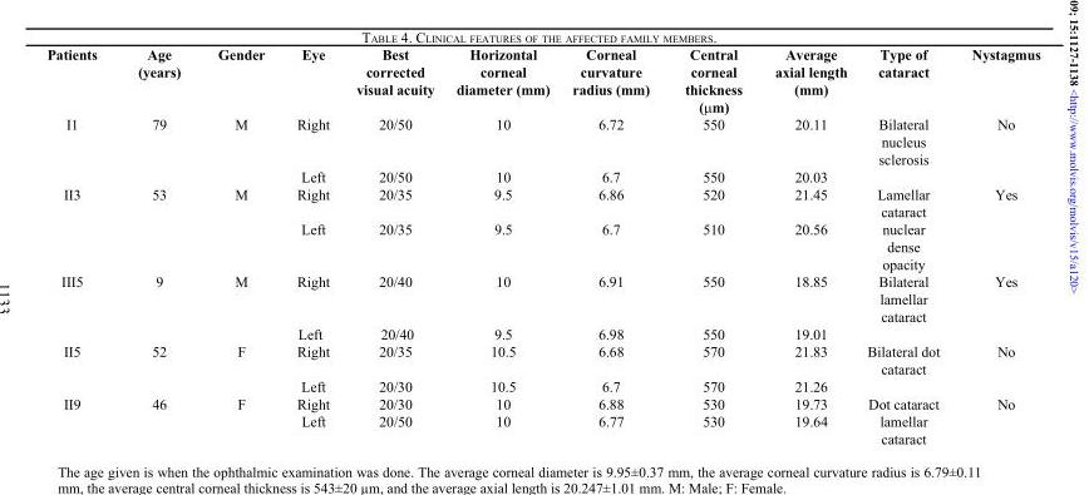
<table><thead><tr><td>Patients</td><td>Age (years)</td><td>Gender</td><td>Eye</td><td>Best corrected visual acuity</td><td>Horizontal corneal diameter (mm)</td><td>Corneal curvature radius (mm)</td><td>Central corneal thickness (µm)</td><td>Average axial length (mm)</td><td>Type of cataract</td><td>Nystagmus</td></tr></thead><tbody><tr><td rowspan="2">I1</td><td rowspan="2">79</td><td rowspan="2">M</td><td>Right</td><td>20/50</td><td>10</td><td>6.72</td><td>550</td><td>20.11</td><td rowspan="2">Bilateral nucleus sclerosis</td><td rowspan="2">No</td></tr><tr><td>Left</td><td>20/50</td><td>10</td><td>6.7</td><td>550</td><td>20.03</td></tr><tr><td rowspan="2">II3</td><td rowspan="2">53</td><td rowspan="2">M</td><td>Right</td><td>20/35</td><td>9.5</td><td>6.86</td><td>520</td><td>21.45</td><td>Lamellar cataract</td><td rowspan="2">Yes</td></tr><tr><td>Left</td><td>20/35</td><td>9.5</td><td>6.7</td><td>510</td><td>20.56</td><td>nuclear dense opacity</td></tr><tr><td rowspan="2">III5</td><td rowspan="2">9</td><td rowspan="2">M</td><td>Right</td><td>20/40</td><td>10</td><td>6.91</td><td>550</td><td>18.85</td><td rowspan="2">Bilateral lamellar cataract</td><td rowspan="2">Yes</td></tr><tr><td>Left</td><td>20/40</td><td>9.5</td><td>6.98</td><td>550</td><td>19.01</td></tr><tr><td rowspan="2">II5</td><td rowspan="2">52</td><td rowspan="2">F</td><td>Right</td><td>20/35</td><td>10.5</td><td>6.68</td><td>570</td><td>21.83</td><td rowspan="2">Bilateral dot cataract</td><td rowspan="2">No</td></tr><tr><td>Left</td><td>20/30</td><td>10.5</td><td>6.7</td><td>570</td><td>21.26</td></tr><tr><td rowspan="2">II9</td><td rowspan="2">46</td><td rowspan="2">F</td><td>Right</td><td>20/30</td><td>10</td><td>6.88</td><td>530</td><td>19.73</td><td>Dot cataract</td><td rowspan="2">No</td></tr><tr><td>Left</td><td>20/50</td><td>10</td><td>6.77</td><td>530</td><td>19.64</td><td>lamellar cataract</td></tr></tbody></table>